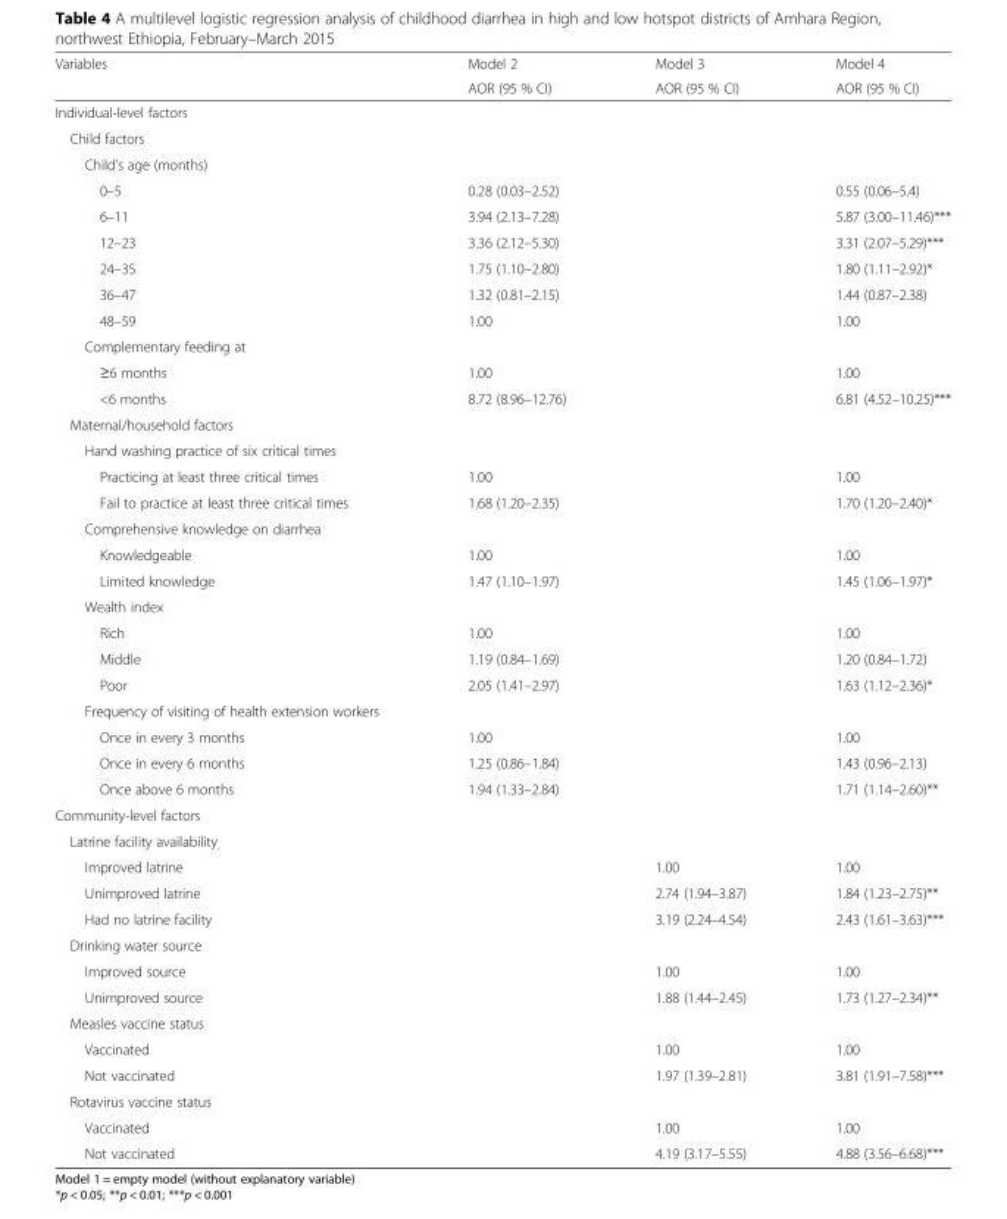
<table><thead><tr><td rowspan="2">Variables</td><td rowspan="2">Model 2 AOR (95 % CI)</td><td rowspan="2">Model 3 AOR (95 % CI)</td><td rowspan="2">Model 4 AOR (95 % CI)</td></tr><tr></tr></thead><tbody><tr><td colspan="4">Individual-level factors</td></tr><tr><td colspan="4">Child factors</td></tr><tr><td colspan="4">Child’s age (months)</td></tr><tr><td>0–5</td><td>0.28 (0.03–2.52)</td><td></td><td>0.55 (0.06–5.4)</td></tr><tr><td>6–11</td><td>3.94 (2.13–7.28)</td><td></td><td>5.87 (3.00–11.46)***</td></tr><tr><td>12–23</td><td>3.36 (2.12–5.30)</td><td></td><td>3.31 (2.07–5.29)***</td></tr><tr><td>24–35</td><td>1.75 (1.10–2.80)</td><td></td><td>1.80 (1.11–2.92)*</td></tr><tr><td>36–47</td><td>1.32 (0.81–2.15)</td><td></td><td>1.44 (0.87–2.38)</td></tr><tr><td>48–59</td><td>1.00</td><td></td><td>1.00</td></tr><tr><td colspan="4">Complementary feeding at</td></tr><tr><td>≥6 months</td><td>1.00</td><td></td><td>1.00</td></tr><tr><td>&lt;6 months</td><td>8.72 (8.96–12.76)</td><td></td><td>6.81 (4.52–10.25)***</td></tr><tr><td colspan="4">Maternal/household factors</td></tr><tr><td colspan="4">Hand washing practice of six critical times</td></tr><tr><td>Practicing at least three critical times</td><td>1.00</td><td></td><td>1.00</td></tr><tr><td>Fail to practice at least three critical times</td><td>1.68 (1.20–2.35)</td><td></td><td>1.70 (1.20–2.40)*</td></tr><tr><td colspan="4">Comprehensive knowledge on diarrhea</td></tr><tr><td>Knowledgeable</td><td>1.00</td><td></td><td>1.00</td></tr><tr><td>Limited knowledge</td><td>1.47 (1.10–1.97)</td><td></td><td>1.45 (1.06–1.97)*</td></tr><tr><td colspan="4">Wealth index</td></tr><tr><td>Rich</td><td>1.00</td><td></td><td>1.00</td></tr><tr><td>Middle</td><td>1.19 (0.84–1.69)</td><td></td><td>1.20 (0.84–1.72)</td></tr><tr><td>Poor</td><td>2.05 (1.41–2.97)</td><td></td><td>1.63 (1.12–2.36)*</td></tr><tr><td colspan="4">Frequency of visiting of health extension workers</td></tr><tr><td>Once in every 3 months</td><td>1.00</td><td></td><td>1.00</td></tr><tr><td>Once in every 6 months</td><td>1.25 (0.86–1.84)</td><td></td><td>1.43 (0.96–2.13)</td></tr><tr><td>Once above 6 months</td><td>1.94 (1.33–2.84)</td><td></td><td>1.71 (1.14–2.60)**</td></tr><tr><td colspan="4">Community-level factors</td></tr><tr><td colspan="4">Latrine facility availability</td></tr><tr><td>Improved latrine</td><td></td><td>1.00</td><td>1.00</td></tr><tr><td>Unimproved latrine</td><td></td><td>2.74 (1.94–3.87)</td><td>1.84 (1.23–2.75)**</td></tr><tr><td>Had no latrine facility</td><td></td><td>3.19 (2.24–4.54)</td><td>2.43 (1.61–3.63)***</td></tr><tr><td colspan="4">Drinking water source</td></tr><tr><td>Improved source</td><td></td><td>1.00</td><td>1.00</td></tr><tr><td>Unimproved source</td><td></td><td>1.88 (1.44–2.45)</td><td>1.73 (1.27–2.34)**</td></tr><tr><td colspan="4">Measles vaccine status</td></tr><tr><td>Vaccinated</td><td></td><td>1.00</td><td>1.00</td></tr><tr><td>Not vaccinated</td><td></td><td>1.97 (1.39–2.81)</td><td>3.81 (1.91–7.58)***</td></tr><tr><td colspan="4">Rotavirus vaccine status</td></tr><tr><td>Vaccinated</td><td></td><td>1.00</td><td>1.00</td></tr><tr><td>Not vaccinated</td><td></td><td>4.19 (3.17–5.55)</td><td>4.88 (3.56–6.68)***</td></tr></tbody></table>